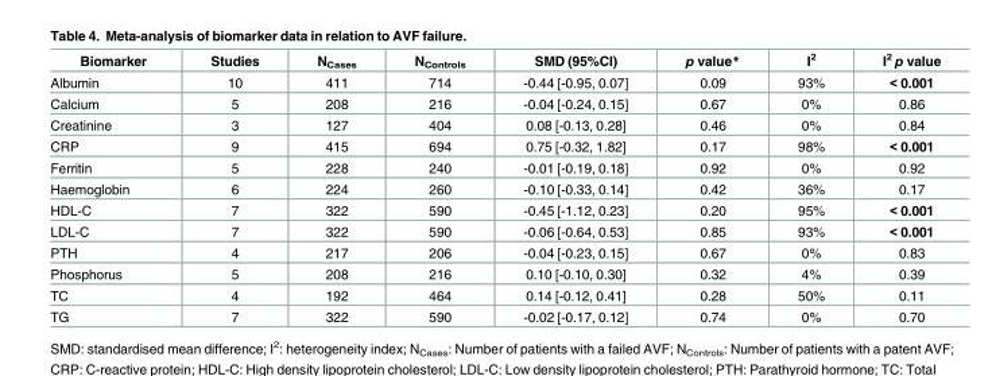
<table><thead><tr><td>Biomarker</td><td>Studies</td><td>N<sub>Cases</sub></td><td>N<sub>Controls</sub></td><td>SMD (95%CI)</td><td>p value*</td><td>I<sup>2</sup></td><td>I<sup>2</sup> p value</td></tr></thead><tbody><tr><td>Albumin</td><td>10</td><td>411</td><td>714</td><td>-0.44 [-0.95, 0.07]</td><td>0.09</td><td>93%</td><td>&lt; 0.001</td></tr><tr><td>Calcium</td><td>5</td><td>208</td><td>216</td><td>-0.04 [-0.24, 0.15]</td><td>0.67</td><td>0%</td><td>0.86</td></tr><tr><td>Creatinine</td><td>3</td><td>127</td><td>404</td><td>0.08 [-0.13, 0.28]</td><td>0.46</td><td>0%</td><td>0.84</td></tr><tr><td>CRP</td><td>9</td><td>415</td><td>694</td><td>0.75 [-0.32, 1.82]</td><td>0.17</td><td>98%</td><td>&lt; 0.001</td></tr><tr><td>Ferritin</td><td>5</td><td>228</td><td>240</td><td>-0.01 [-0.19, 0.18]</td><td>0.92</td><td>0%</td><td>0.92</td></tr><tr><td>Haemoglobin</td><td>6</td><td>224</td><td>260</td><td>-0.10 [-0.33, 0.14]</td><td>0.42</td><td>36%</td><td>0.17</td></tr><tr><td>HDL-C</td><td>7</td><td>322</td><td>590</td><td>-0.45 [-1.12, 0.23]</td><td>0.20</td><td>95%</td><td>&lt; 0.001</td></tr><tr><td>LDL-C</td><td>7</td><td>322</td><td>590</td><td>-0.06 [-0.64, 0.53]</td><td>0.85</td><td>93%</td><td>&lt; 0.001</td></tr><tr><td>PTH</td><td>4</td><td>217</td><td>206</td><td>-0.04 [-0.23, 0.15]</td><td>0.67</td><td>0%</td><td>0.83</td></tr><tr><td>Phosphorus</td><td>5</td><td>208</td><td>216</td><td>0.10 [-0.10, 0.30]</td><td>0.32</td><td>4%</td><td>0.39</td></tr><tr><td>TC</td><td>4</td><td>192</td><td>464</td><td>0.14 [-0.12, 0.41]</td><td>0.28</td><td>50%</td><td>0.11</td></tr><tr><td>TG</td><td>7</td><td>322</td><td>590</td><td>-0.02 [-0.17, 0.12]</td><td>0.74</td><td>0%</td><td>0.70</td></tr></tbody></table>